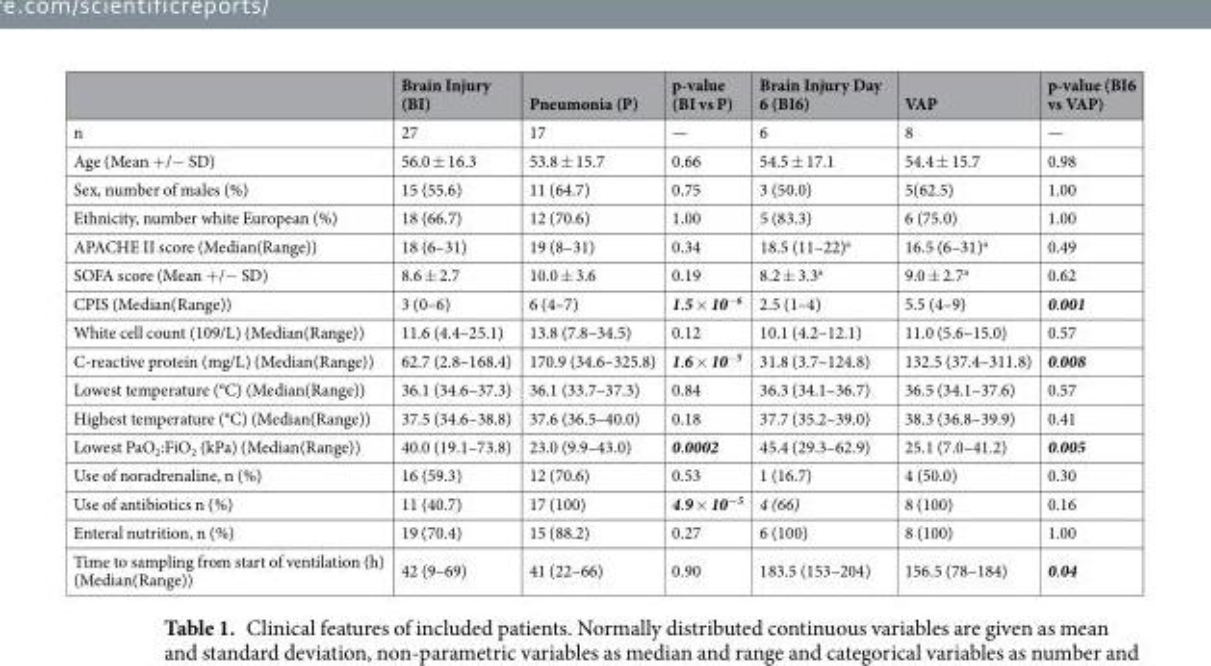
<table><thead><tr><td></td><td>Brain Injury (BI)</td><td>Pneumonia (P)</td><td>p-value (BI vs P)</td><td>Brain Injury Day 6 (BI6)</td><td>VAP</td><td>p-value (BI6 vs VAP)</td></tr></thead><tbody><tr><td>n</td><td>27</td><td>17</td><td>—</td><td>6</td><td>8</td><td>—</td></tr><tr><td>Age (Mean +/− SD)</td><td>56.0 ± 16.3</td><td>53.8 ± 15.7</td><td>0.66</td><td>54.5 ± 17.1</td><td>54.4 ± 15.7</td><td>0.98</td></tr><tr><td>Sex, number of males (%)</td><td>15 (55.6)</td><td>11 (64.7)</td><td>0.75</td><td>3 (50.0)</td><td>5(62.5)</td><td>1.00</td></tr><tr><td>Ethnicity, number white European (%)</td><td>18 (66.7)</td><td>12 (70.6)</td><td>1.00</td><td>5 (83.3)</td><td>6 (75.0)</td><td>1.00</td></tr><tr><td>APACHE II score (Median(Range))</td><td>18 (6–31)</td><td>19 (8–31)</td><td>0.34</td><td>18.5 (11–22)<sup>a</sup></td><td>16.5 (6–31)<sup>a</sup></td><td>0.49</td></tr><tr><td>SOFA score (Mean +/− SD)</td><td>8.6 ± 2.7</td><td>10.0 ± 3.6</td><td>0.19</td><td>8.2 ± 3.3<sup>a</sup></td><td>9.0 ± 2.7<sup>a</sup></td><td>0.62</td></tr><tr><td>CPIS (Median(Range))</td><td>3 (0–6)</td><td>6 (4–7)</td><td>1.5 × 10<sup>−6</sup></td><td>2.5 (1–4)</td><td>5.5 (4–9)</td><td>0.001</td></tr><tr><td>White cell count (109/L) (Median(Range))</td><td>11.6 (4.4–25.1)</td><td>13.8 (7.8–34.5)</td><td>0.12</td><td>10.1 (4.2–12.1)</td><td>11.0 (5.6–15.0)</td><td>0.57</td></tr><tr><td>C-reactive protein (mg/L) (Median(Range))</td><td>62.7 (2.8–168.4)</td><td>170.9 (34.6–325.8)</td><td>1.6 × 10<sup>−5</sup></td><td>31.8 (3.7–124.8)</td><td>132.5 (37.4–311.8)</td><td>0.008</td></tr><tr><td>Lowest temperature (°C) (Median(Range))</td><td>36.1 (34.6–37.3)</td><td>36.1 (33.7–37.3)</td><td>0.84</td><td>36.3 (34.1–36.7)</td><td>36.5 (34.1–37.6)</td><td>0.57</td></tr><tr><td>Highest temperature (°C) (Median(Range))</td><td>37.5 (34.6–38.8)</td><td>37.6 (36.5–40.0)</td><td>0.18</td><td>37.7 (35.2–39.0)</td><td>38.3 (36.8–39.9)</td><td>0.41</td></tr><tr><td>Lowest PaO<sub>2</sub>:FiO<sub>2</sub> (kPa) (Median(Range))</td><td>40.0 (19.1–73.8)</td><td>23.0 (9.9–43.0)</td><td>0.0002</td><td>45.4 (29.3–62.9)</td><td>25.1 (7.0–41.2)</td><td>0.005</td></tr><tr><td>Use of noradrenaline, n (%)</td><td>16 (59.3)</td><td>12 (70.6)</td><td>0.53</td><td>1 (16.7)</td><td>4 (50.0)</td><td>0.30</td></tr><tr><td>Use of antibiotics n (%)</td><td>11 (40.7)</td><td>17 (100)</td><td>4.9 × 10<sup>−5</sup></td><td>4 (66)</td><td>8 (100)</td><td>0.16</td></tr><tr><td>Enteral nutrition, n (%)</td><td>19 (70.4)</td><td>15 (88.2)</td><td>0.27</td><td>6 (100)</td><td>8 (100)</td><td>1.00</td></tr><tr><td>Time to sampling from start of ventilation (h) (Median(Range))</td><td>42 (9–69)</td><td>41 (22–66)</td><td>0.90</td><td>183.5 (153–204)</td><td>156.5 (78–184)</td><td>0.04</td></tr></tbody></table>